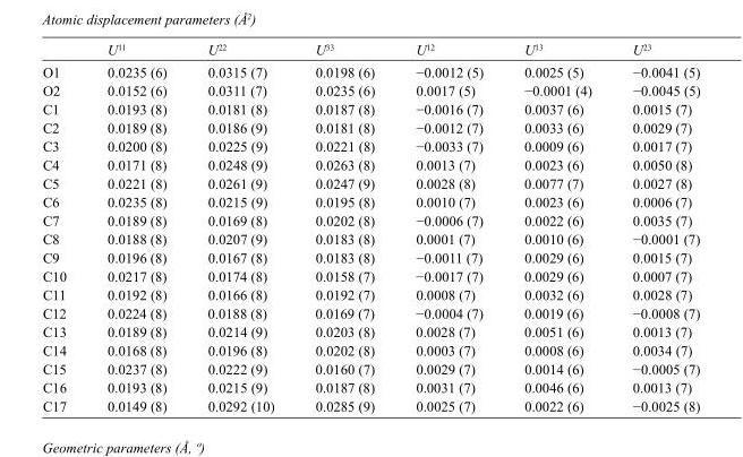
<table><thead><tr><td></td><td>U<sup>11</sup></td><td>U<sup>22</sup></td><td>U<sup>33</sup></td><td>U<sup>12</sup></td><td>U<sup>13</sup></td><td>U<sup>23</sup></td></tr></thead><tbody><tr><td>O1</td><td>0.0235 (6)</td><td>0.0315 (7)</td><td>0.0198 (6)</td><td>−0.0012 (5)</td><td>0.0025 (5)</td><td>−0.0041 (5)</td></tr><tr><td>O2</td><td>0.0152 (6)</td><td>0.0311 (7)</td><td>0.0235 (6)</td><td>0.0017 (5)</td><td>−0.0001 (4)</td><td>−0.0045 (5)</td></tr><tr><td>C1</td><td>0.0193 (8)</td><td>0.0181 (8)</td><td>0.0187 (8)</td><td>−0.0016 (7)</td><td>0.0037 (6)</td><td>0.0015 (7)</td></tr><tr><td>C2</td><td>0.0189 (8)</td><td>0.0186 (9)</td><td>0.0181 (8)</td><td>−0.0012 (7)</td><td>0.0033 (6)</td><td>0.0029 (7)</td></tr><tr><td>C3</td><td>0.0200 (8)</td><td>0.0225 (9)</td><td>0.0221 (8)</td><td>−0.0033 (7)</td><td>0.0009 (6)</td><td>0.0017 (7)</td></tr><tr><td>C4</td><td>0.0171 (8)</td><td>0.0248 (9)</td><td>0.0263 (8)</td><td>0.0013 (7)</td><td>0.0023 (6)</td><td>0.0050 (8)</td></tr><tr><td>C5</td><td>0.0221 (8)</td><td>0.0261 (9)</td><td>0.0247 (9)</td><td>0.0028 (8)</td><td>0.0077 (7)</td><td>0.0027 (8)</td></tr><tr><td>C6</td><td>0.0235 (8)</td><td>0.0215 (9)</td><td>0.0195 (8)</td><td>0.0010 (7)</td><td>0.0023 (6)</td><td>0.0006 (7)</td></tr><tr><td>C7</td><td>0.0189 (8)</td><td>0.0169 (8)</td><td>0.0202 (8)</td><td>−0.0006 (7)</td><td>0.0022 (6)</td><td>0.0035 (7)</td></tr><tr><td>C8</td><td>0.0188 (8)</td><td>0.0207 (9)</td><td>0.0183 (8)</td><td>0.0001 (7)</td><td>0.0010 (6)</td><td>−0.0001 (7)</td></tr><tr><td>C9</td><td>0.0196 (8)</td><td>0.0167 (8)</td><td>0.0183 (8)</td><td>−0.0011 (7)</td><td>0.0029 (6)</td><td>0.0015 (7)</td></tr><tr><td>C10</td><td>0.0217 (8)</td><td>0.0174 (8)</td><td>0.0158 (7)</td><td>−0.0017 (7)</td><td>0.0029 (6)</td><td>0.0007 (7)</td></tr><tr><td>C11</td><td>0.0192 (8)</td><td>0.0166 (8)</td><td>0.0192 (7)</td><td>0.0008 (7)</td><td>0.0032 (6)</td><td>0.0028 (7)</td></tr><tr><td>C12</td><td>0.0224 (8)</td><td>0.0188 (8)</td><td>0.0169 (7)</td><td>−0.0004 (7)</td><td>0.0019 (6)</td><td>−0.0008 (7)</td></tr><tr><td>C13</td><td>0.0189 (8)</td><td>0.0214 (9)</td><td>0.0203 (8)</td><td>0.0028 (7)</td><td>0.0051 (6)</td><td>0.0013 (7)</td></tr><tr><td>C14</td><td>0.0168 (8)</td><td>0.0196 (8)</td><td>0.0202 (8)</td><td>0.0003 (7)</td><td>0.0008 (6)</td><td>0.0034 (7)</td></tr><tr><td>C15</td><td>0.0237 (8)</td><td>0.0222 (9)</td><td>0.0160 (7)</td><td>0.0029 (7)</td><td>0.0014 (6)</td><td>−0.0005 (7)</td></tr><tr><td>C16</td><td>0.0193 (8)</td><td>0.0215 (9)</td><td>0.0187 (8)</td><td>0.0031 (7)</td><td>0.0046 (6)</td><td>0.0013 (7)</td></tr><tr><td>C17</td><td>0.0149 (8)</td><td>0.0292 (10)</td><td>0.0285 (9)</td><td>0.0025 (7)</td><td>0.0022 (6)</td><td>−0.0025 (8)</td></tr></tbody></table>